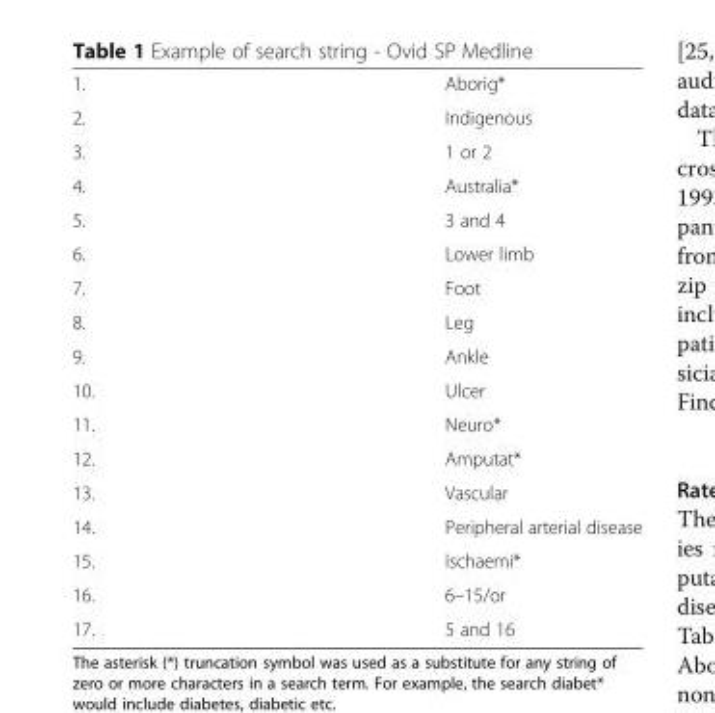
<table><tbody><tr><td>1.</td><td>Aborig*</td></tr><tr><td>2.</td><td>Indigenous</td></tr><tr><td>3.</td><td>1 or 2</td></tr><tr><td>4.</td><td>Australia*</td></tr><tr><td>5.</td><td>3 and 4</td></tr><tr><td>6.</td><td>Lower limb</td></tr><tr><td>7.</td><td>Foot</td></tr><tr><td>8.</td><td>Leg</td></tr><tr><td>9.</td><td>Ankle</td></tr><tr><td>10.</td><td>Ulcer</td></tr><tr><td>11.</td><td>Neuro*</td></tr><tr><td>12.</td><td>Amputat*</td></tr><tr><td>13.</td><td>Vascular</td></tr><tr><td>14.</td><td>Peripheral arterial disease</td></tr><tr><td>15.</td><td>Ischaemi*</td></tr><tr><td>16.</td><td>6–15/or</td></tr><tr><td>17.</td><td>5 and 16</td></tr></tbody></table>